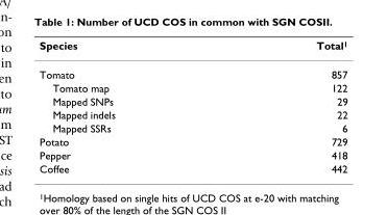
<table><thead><tr><td>Species</td><td>Total<sup>1</sup></td></tr></thead><tbody><tr><td>Tomato</td><td>857</td></tr><tr><td>Tomato map</td><td>122</td></tr><tr><td>Mapped SNPs</td><td>29</td></tr><tr><td>Mapped indels</td><td>22</td></tr><tr><td>Mapped SSRs</td><td>6</td></tr><tr><td>Potato</td><td>729</td></tr><tr><td>Pepper</td><td>418</td></tr><tr><td>Coffee</td><td>442</td></tr></tbody></table>